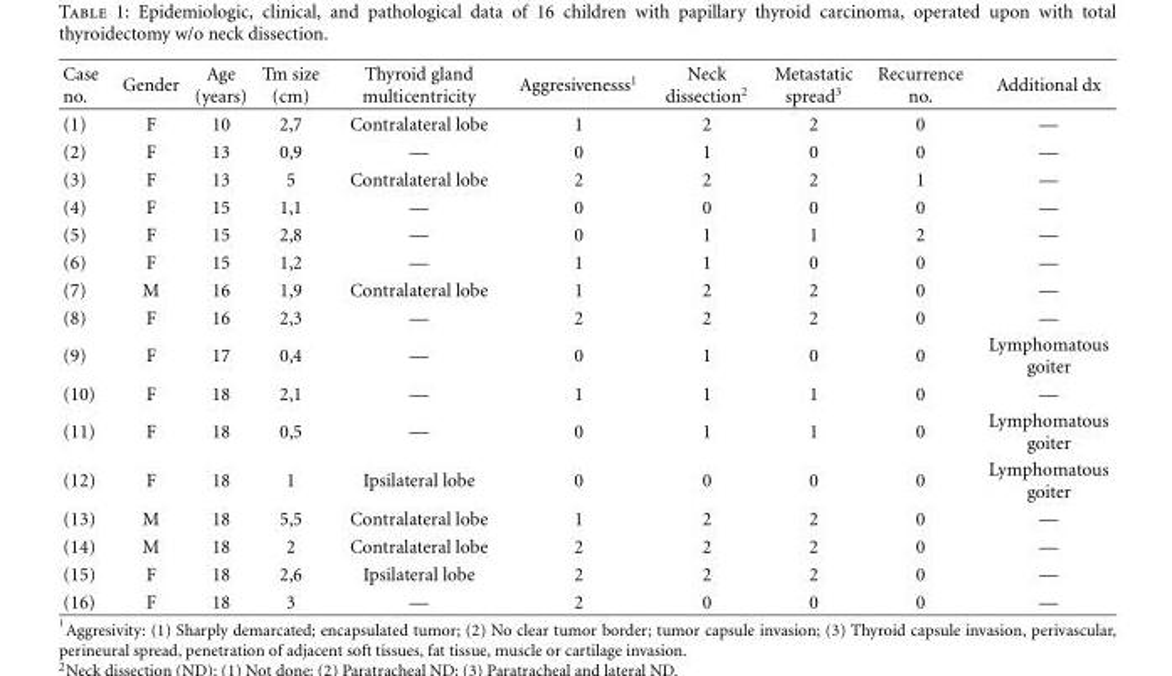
<table><thead><tr><td>Case no.</td><td>Gender</td><td>Age (years)</td><td>Tm size (cm)</td><td>Thyroid gland multicentricity</td><td>Aggresivenesss<sup>1</sup></td><td>Neck dissection<sup>2</sup></td><td>Metastatic spread<sup>3</sup></td><td>Recurrence no.</td><td>Additional dx</td></tr></thead><tbody><tr><td>(1)</td><td>F</td><td>10</td><td>2,7</td><td>Contralateral lobe</td><td>1</td><td>2</td><td>2</td><td>0</td><td>—</td></tr><tr><td>(2)</td><td>F</td><td>13</td><td>0,9</td><td>—</td><td>0</td><td>1</td><td>0</td><td>0</td><td>—</td></tr><tr><td>(3)</td><td>F</td><td>13</td><td>5</td><td>Contralateral lobe</td><td>2</td><td>2</td><td>2</td><td>1</td><td>—</td></tr><tr><td>(4)</td><td>F</td><td>15</td><td>1,1</td><td>—</td><td>0</td><td>0</td><td>0</td><td>0</td><td>—</td></tr><tr><td>(5)</td><td>F</td><td>15</td><td>2,8</td><td>—</td><td>0</td><td>1</td><td>1</td><td>2</td><td>—</td></tr><tr><td>(6)</td><td>F</td><td>15</td><td>1,2</td><td>—</td><td>1</td><td>1</td><td>0</td><td>0</td><td>—</td></tr><tr><td>(7)</td><td>M</td><td>16</td><td>1,9</td><td>Contralateral lobe</td><td>1</td><td>2</td><td>2</td><td>0</td><td>—</td></tr><tr><td>(8)</td><td>F</td><td>16</td><td>2,3</td><td>—</td><td>2</td><td>2</td><td>2</td><td>0</td><td>—</td></tr><tr><td>(9)</td><td>F</td><td>17</td><td>0,4</td><td>—</td><td>0</td><td>1</td><td>0</td><td>0</td><td>Lymphomatous goiter</td></tr><tr><td>(10)</td><td>F</td><td>18</td><td>2,1</td><td>—</td><td>1</td><td>1</td><td>1</td><td>0</td><td>—</td></tr><tr><td>(11)</td><td>F</td><td>18</td><td>0,5</td><td>—</td><td>0</td><td>1</td><td>1</td><td>0</td><td>Lymphomatous goiter</td></tr><tr><td>(12)</td><td>F</td><td>18</td><td>1</td><td>Ipsilateral lobe</td><td>0</td><td>0</td><td>0</td><td>0</td><td>Lymphomatous goiter</td></tr><tr><td>(13)</td><td>M</td><td>18</td><td>5,5</td><td>Contralateral lobe</td><td>1</td><td>2</td><td>2</td><td>0</td><td>—</td></tr><tr><td>(14)</td><td>M</td><td>18</td><td>2</td><td>Contralateral lobe</td><td>2</td><td>2</td><td>2</td><td>0</td><td>—</td></tr><tr><td>(15)</td><td>F</td><td>18</td><td>2,6</td><td>Ipsilateral lobe</td><td>2</td><td>2</td><td>2</td><td>0</td><td>—</td></tr><tr><td>(16)</td><td>F</td><td>18</td><td>3</td><td>—</td><td>2</td><td>0</td><td>0</td><td>0</td><td>—</td></tr></tbody></table>